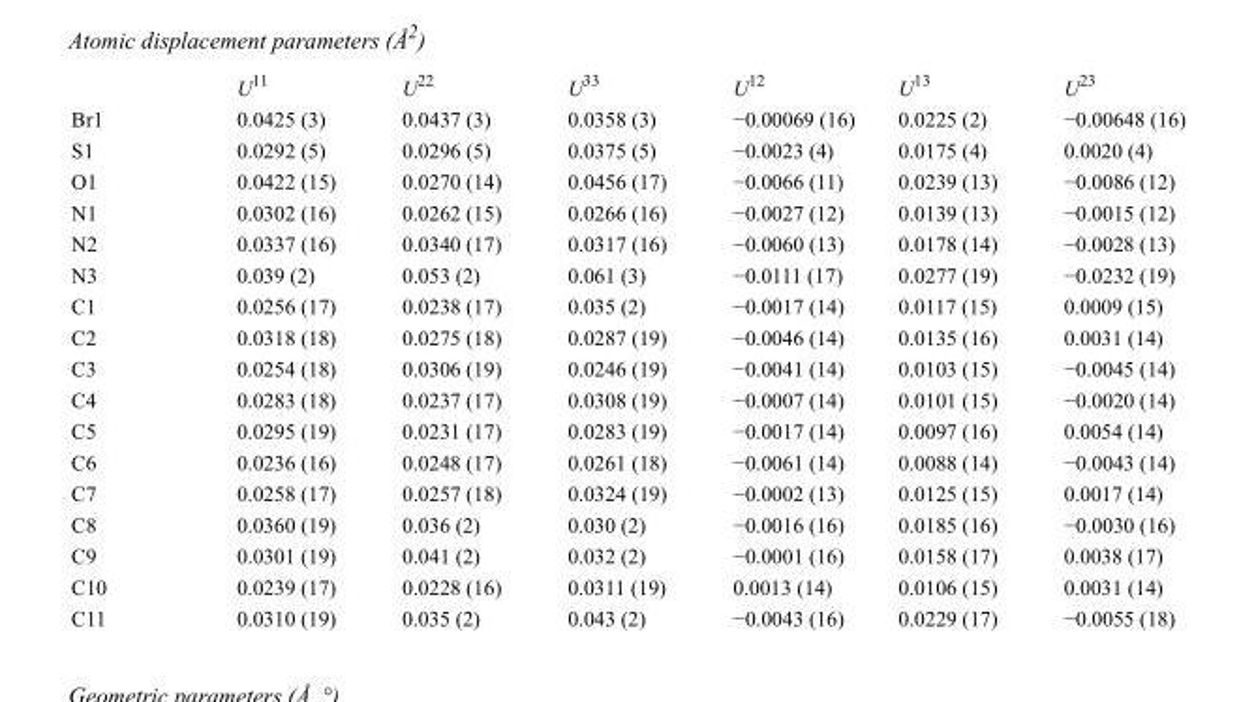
<table><thead><tr><td></td><td>U<sup>11</sup></td><td>U<sup>22</sup></td><td>U<sup>33</sup></td><td>U<sup>12</sup></td><td>U<sup>13</sup></td><td>U<sup>23</sup></td></tr></thead><tbody><tr><td>Br1</td><td>0.0425 (3)</td><td>0.0437 (3)</td><td>0.0358 (3)</td><td>−0.00069 (16)</td><td>0.0225 (2)</td><td>−0.00648 (16)</td></tr><tr><td>S1</td><td>0.0292 (5)</td><td>0.0296 (5)</td><td>0.0375 (5)</td><td>−0.0023 (4)</td><td>0.0175 (4)</td><td>0.0020 (4)</td></tr><tr><td>O1</td><td>0.0422 (15)</td><td>0.0270 (14)</td><td>0.0456 (17)</td><td>−0.0066 (11)</td><td>0.0239 (13)</td><td>−0.0086 (12)</td></tr><tr><td>N1</td><td>0.0302 (16)</td><td>0.0262 (15)</td><td>0.0266 (16)</td><td>−0.0027 (12)</td><td>0.0139 (13)</td><td>−0.0015 (12)</td></tr><tr><td>N2</td><td>0.0337 (16)</td><td>0.0340 (17)</td><td>0.0317 (16)</td><td>−0.0060 (13)</td><td>0.0178 (14)</td><td>−0.0028 (13)</td></tr><tr><td>N3</td><td>0.039 (2)</td><td>0.053 (2)</td><td>0.061 (3)</td><td>−0.0111 (17)</td><td>0.0277 (19)</td><td>−0.0232 (19)</td></tr><tr><td>C1</td><td>0.0256 (17)</td><td>0.0238 (17)</td><td>0.035 (2)</td><td>−0.0017 (14)</td><td>0.0117 (15)</td><td>0.0009 (15)</td></tr><tr><td>C2</td><td>0.0318 (18)</td><td>0.0275 (18)</td><td>0.0287 (19)</td><td>−0.0046 (14)</td><td>0.0135 (16)</td><td>0.0031 (14)</td></tr><tr><td>C3</td><td>0.0254 (18)</td><td>0.0306 (19)</td><td>0.0246 (19)</td><td>−0.0041 (14)</td><td>0.0103 (15)</td><td>−0.0045 (14)</td></tr><tr><td>C4</td><td>0.0283 (18)</td><td>0.0237 (17)</td><td>0.0308 (19)</td><td>−0.0007 (14)</td><td>0.0101 (15)</td><td>−0.0020 (14)</td></tr><tr><td>C5</td><td>0.0295 (19)</td><td>0.0231 (17)</td><td>0.0283 (19)</td><td>−0.0017 (14)</td><td>0.0097 (16)</td><td>0.0054 (14)</td></tr><tr><td>C6</td><td>0.0236 (16)</td><td>0.0248 (17)</td><td>0.0261 (18)</td><td>−0.0061 (14)</td><td>0.0088 (14)</td><td>−0.0043 (14)</td></tr><tr><td>C7</td><td>0.0258 (17)</td><td>0.0257 (18)</td><td>0.0324 (19)</td><td>−0.0002 (13)</td><td>0.0125 (15)</td><td>0.0017 (14)</td></tr><tr><td>C8</td><td>0.0360 (19)</td><td>0.036 (2)</td><td>0.030 (2)</td><td>−0.0016 (16)</td><td>0.0185 (16)</td><td>−0.0030 (16)</td></tr><tr><td>C9</td><td>0.0301 (19)</td><td>0.041 (2)</td><td>0.032 (2)</td><td>−0.0001 (16)</td><td>0.0158 (17)</td><td>0.0038 (17)</td></tr><tr><td>C10</td><td>0.0239 (17)</td><td>0.0228 (16)</td><td>0.0311 (19)</td><td>0.0013 (14)</td><td>0.0106 (15)</td><td>0.0031 (14)</td></tr><tr><td>C11</td><td>0.0310 (19)</td><td>0.035 (2)</td><td>0.043 (2)</td><td>−0.0043 (16)</td><td>0.0229 (17)</td><td>−0.0055 (18)</td></tr></tbody></table>